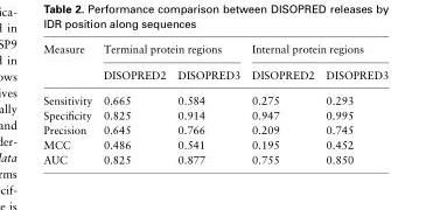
<table><thead><tr><td rowspan="2">Measure</td><td colspan="2">Terminal protein regions</td><td colspan="2">Internal protein regions</td></tr><tr><td>DISOPRED2</td><td>DISOPRED3</td><td>DISOPRED2</td><td>DISOPRED3</td></tr></thead><tbody><tr><td>Sensitivity</td><td>0.665</td><td>0.584</td><td>0.275</td><td>0.293</td></tr><tr><td>Specificity</td><td>0.825</td><td>0.914</td><td>0.947</td><td>0.995</td></tr><tr><td>Precision</td><td>0.645</td><td>0.766</td><td>0.209</td><td>0.745</td></tr><tr><td>MCC</td><td>0.486</td><td>0.541</td><td>0.195</td><td>0.452</td></tr><tr><td>AUC</td><td>0.825</td><td>0.877</td><td>0.755</td><td>0.850</td></tr></tbody></table>